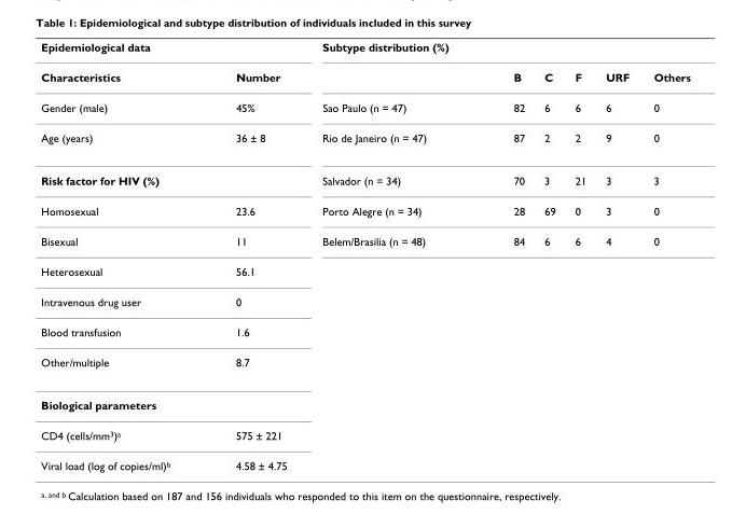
<table><tbody><tr><td>Epidemiological data</td><td></td><td>Subtype distribution (%)</td><td></td><td></td><td></td><td></td><td></td></tr><tr><td>Characteristics</td><td>Number</td><td></td><td>B</td><td>C</td><td>F</td><td>URF</td><td>Others</td></tr><tr><td>Gender (male)</td><td>45%</td><td>Sao Paulo (n = 47)</td><td>82</td><td>6</td><td>6</td><td>6</td><td>0</td></tr><tr><td>Age (years)</td><td>36 ± 8</td><td>Rio de Janeiro (n = 47)</td><td>87</td><td>2</td><td>2</td><td>9</td><td>0</td></tr><tr><td>Risk factor for HIV (%)</td><td></td><td>Salvador (n = 34)</td><td>70</td><td>3</td><td>21</td><td>3</td><td>3</td></tr><tr><td>Homosexual</td><td>23.6</td><td>Porto Alegre (n = 34)</td><td>28</td><td>69</td><td>0</td><td>3</td><td>0</td></tr><tr><td>Bisexual</td><td>11</td><td>Belem/Brasilia (n = 48)</td><td>84</td><td>6</td><td>6</td><td>4</td><td>0</td></tr><tr><td>Heterosexual</td><td>56.1</td><td></td><td></td><td></td><td></td><td></td><td></td></tr><tr><td>Intravenous drug user</td><td>0</td><td></td><td></td><td></td><td></td><td></td><td></td></tr><tr><td>Blood transfusion</td><td>1.6</td><td></td><td></td><td></td><td></td><td></td><td></td></tr><tr><td>Other/multiple</td><td>8.7</td><td></td><td></td><td></td><td></td><td></td><td></td></tr><tr><td colspan="8">Biological parameters</td></tr><tr><td>CD4 (cells/mm<sup>3</sup>)<sup>a</sup></td><td>575 ± 221</td><td></td><td></td><td></td><td></td><td></td><td></td></tr><tr><td>Viral load (log of copies/ml)<sup>b</sup></td><td>4.58 ± 4.75</td><td></td><td></td><td></td><td></td><td></td><td></td></tr></tbody></table>